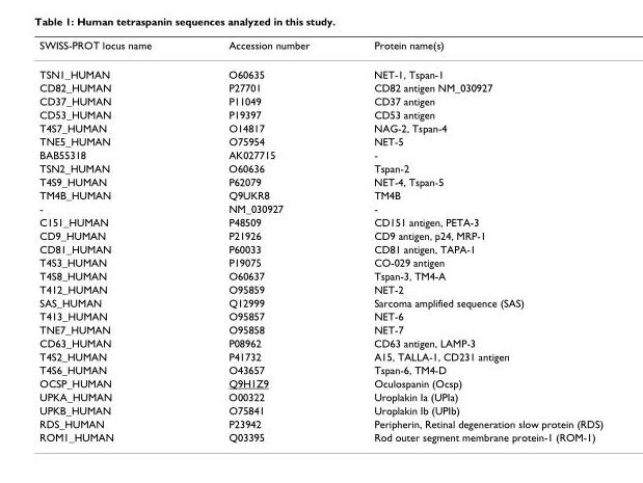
<table><thead><tr><td>SWISS-PROT locus name</td><td>Accession number</td><td>Protein name(s)</td></tr></thead><tbody><tr><td>TSN1_HUMAN</td><td>O60635</td><td>NET-1, Tspan-1</td></tr><tr><td>CD82_HUMAN</td><td>P27701</td><td>CD82 antigen NM_030927</td></tr><tr><td>CD37_HUMAN</td><td>P11049</td><td>CD37 antigen</td></tr><tr><td>CD53_HUMAN</td><td>P19397</td><td>CD53 antigen</td></tr><tr><td>T4S7_HUMAN</td><td>O14817</td><td>NAG-2, Tspan-4</td></tr><tr><td>TNE5_HUMAN</td><td>O75954</td><td>NET-5</td></tr><tr><td>BAB55318</td><td>AK027715</td><td>-</td></tr><tr><td>TSN2_HUMAN</td><td>O60636</td><td>Tspan-2</td></tr><tr><td>T4S9_HUMAN</td><td>P62079</td><td>NET-4, Tspan-5</td></tr><tr><td>TM4B_HUMAN</td><td>Q9UKR8</td><td>TM4B</td></tr><tr><td>-</td><td>NM_030927</td><td>-</td></tr><tr><td>C151_HUMAN</td><td>P48509</td><td>CD151 antigen, PETA-3</td></tr><tr><td>CD9_HUMAN</td><td>P21926</td><td>CD9 antigen, p24, MRP-1</td></tr><tr><td>CD81_HUMAN</td><td>P60033</td><td>CD81 antigen, TAPA-1</td></tr><tr><td>T4S3_HUMAN</td><td>P19075</td><td>CO-029 antigen</td></tr><tr><td>T4S8_HUMAN</td><td>O60637</td><td>Tspan-3, TM4-A</td></tr><tr><td>T412_HUMAN</td><td>O95859</td><td>NET-2</td></tr><tr><td>SAS_HUMAN</td><td>Q12999</td><td>Sarcoma amplified sequence (SAS)</td></tr><tr><td>T413_HUMAN</td><td>O95857</td><td>NET-6</td></tr><tr><td>TNE7_HUMAN</td><td>O95858</td><td>NET-7</td></tr><tr><td>CD63_HUMAN</td><td>P08962</td><td>CD63 antigen, LAMP-3</td></tr><tr><td>T4S2_HUMAN</td><td>P41732</td><td>A15, TALLA-1, CD231 antigen</td></tr><tr><td>T4S6_HUMAN</td><td>O43657</td><td>Tspan-6, TM4-D</td></tr><tr><td>OCSP_HUMAN</td><td>Q9H1Z9</td><td>Oculospanin (Ocsp)</td></tr><tr><td>UPKA_HUMAN</td><td>O00322</td><td>Uroplakin Ia (UPIa)</td></tr><tr><td>UPKB_HUMAN</td><td>O75841</td><td>Uroplakin Ib (UPIb)</td></tr><tr><td>RDS_HUMAN</td><td>P23942</td><td>Peripherin, Retinal degeneration slow protein (RDS)</td></tr><tr><td>ROM1_HUMAN</td><td>Q03395</td><td>Rod outer segment membrane protein-1 (ROM-1)</td></tr></tbody></table>